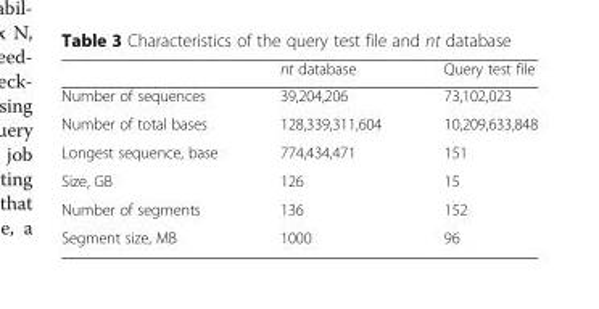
<table><thead><tr><td></td><td>nt database</td><td>Query test file</td></tr></thead><tbody><tr><td>Number of sequences</td><td>39,204,206</td><td>73,102,023</td></tr><tr><td>Number of total bases</td><td>128,339,311,604</td><td>10,209,633,848</td></tr><tr><td>Longest sequence, base</td><td>774,434,471</td><td>151</td></tr><tr><td>Size, GB</td><td>126</td><td>15</td></tr><tr><td>Number of segments</td><td>136</td><td>152</td></tr><tr><td>Segment size, MB</td><td>1000</td><td>96</td></tr></tbody></table>